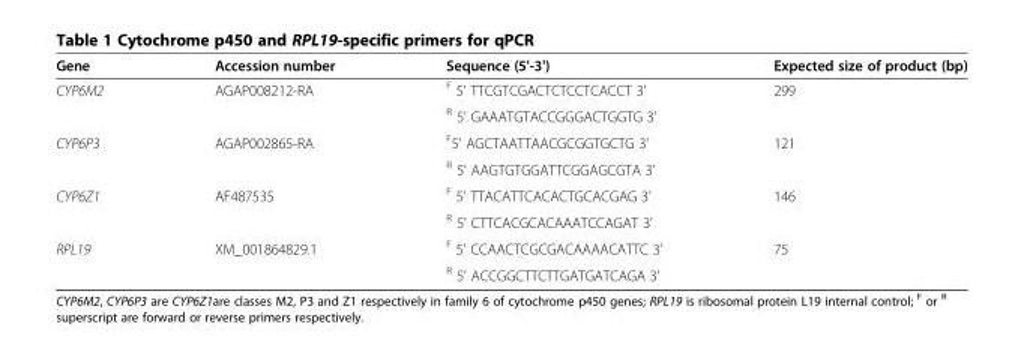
<table><thead><tr><td>Gene</td><td>Accession number</td><td>Sequence (5&#x27;-3&#x27;)</td><td>Expected size of product (bp)</td></tr></thead><tbody><tr><td rowspan="2">CYP6M2</td><td>AGAP008212-RA</td><td><sup>F</sup> 5&#x27; TTCGTCGACTCTCCTCACCT 3&#x27;</td><td>299</td></tr><tr><td></td><td><sup>R</sup> 5&#x27; GAAATGTACCGGGACTGGTG 3&#x27;</td><td></td></tr><tr><td rowspan="2">CYP6P3</td><td>AGAP002865-RA</td><td><sup>F</sup>5&#x27; AGCTAATTAACGCGGTGCTG 3&#x27;</td><td>121</td></tr><tr><td></td><td><sup>R</sup> 5&#x27; AAGTGTGGATTCGGAGCGTA 3&#x27;</td><td></td></tr><tr><td rowspan="2">CYP6Z1</td><td>AF487535</td><td><sup>F</sup> 5&#x27; TTACATTCACACTGCACGAG 3&#x27;</td><td>146</td></tr><tr><td></td><td><sup>R</sup> 5&#x27; CTTCACGCACAAATCCAGAT 3&#x27;</td><td></td></tr><tr><td rowspan="2">RPL19</td><td>XM_001864829.1</td><td><sup>F</sup> 5&#x27; CCAACTCGCGACAAAACATTC 3&#x27;</td><td>75</td></tr><tr><td></td><td><sup>R</sup> 5&#x27; ACCGGCTTCTTGATGATCAGA 3&#x27;</td><td></td></tr></tbody></table>